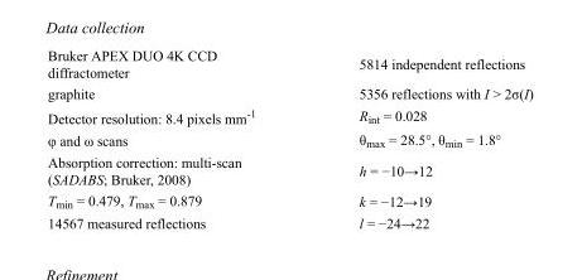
<table><tbody><tr><td>Bruker APEX DUO 4K CCD diffractometer</td><td>5814 independent reflections</td></tr><tr><td>graphite</td><td>5356 reflections with I &gt; 2σ(I)</td></tr><tr><td>Detector resolution: 8.4 pixels mm<sup>-1</sup></td><td>R<sub>int</sub> = 0.028</td></tr><tr><td>φ and ω scans</td><td>θ<sub>max</sub> = 28.5°, θ<sub>min</sub> = 1.8°</td></tr><tr><td>Absorption correction: multi-scan (SADABS; Bruker, 2008)</td><td>h = −10→12</td></tr><tr><td>T<sub>min</sub> = 0.479, T<sub>max</sub> = 0.879</td><td>k = −12→19</td></tr><tr><td>14567 measured reflections</td><td>l = −24→22</td></tr></tbody></table>